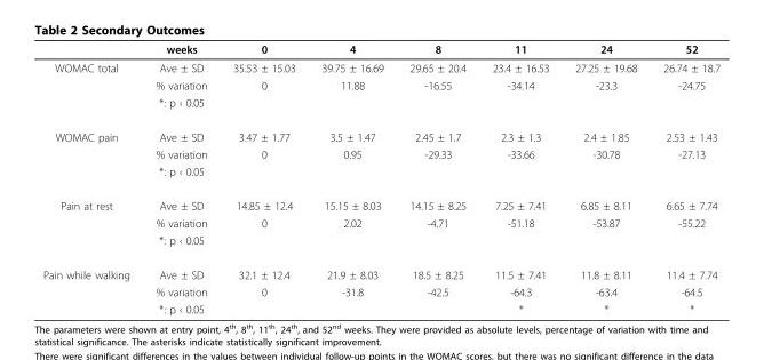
<table><thead><tr><td></td><td>weeks</td><td>0</td><td>4</td><td>8</td><td>11</td><td>24</td><td>52</td></tr></thead><tbody><tr><td rowspan="3">WOMAC total</td><td>Ave ± SD</td><td>35.53 ± 15.03</td><td>39.75 ± 16.69</td><td>29.65 ± 20.4</td><td>23.4 ± 16.53</td><td>27.25 ± 19.68</td><td>26.74 ± 18.7</td></tr><tr><td>% variation</td><td>0</td><td>11.88</td><td>-16.55</td><td>-34.14</td><td>-23.3</td><td>-24.75</td></tr><tr><td>*: p ‹ 0.05</td><td></td><td></td><td></td><td></td><td></td><td></td></tr><tr><td rowspan="3">WOMAC pain</td><td>Ave ± SD</td><td>3.47 ± 1.77</td><td>3.5 ± 1.47</td><td>2.45 ± 1.7</td><td>2.3 ± 1.3</td><td>2.4 ± 1.85</td><td>2.53 ± 1.43</td></tr><tr><td>% variation</td><td>0</td><td>0.95</td><td>-29.33</td><td>-33.66</td><td>-30.78</td><td>-27.13</td></tr><tr><td>*: p ‹ 0.05</td><td></td><td></td><td></td><td></td><td></td><td></td></tr><tr><td rowspan="3">Pain at rest</td><td>Ave ± SD</td><td>14.85 ± 12.4</td><td>15.15 ± 8.03</td><td>14.15 ± 8.25</td><td>7.25 ± 7.41</td><td>6.85 ± 8.11</td><td>6.65 ± 7.74</td></tr><tr><td>% variation</td><td>0</td><td>2.02</td><td>-4.71</td><td>-51.18</td><td>-53.87</td><td>-55.22</td></tr><tr><td>*: p ‹ 0.05</td><td></td><td></td><td></td><td></td><td></td><td></td></tr><tr><td rowspan="3">Pain while walking</td><td>Ave ± SD</td><td>32.1 ± 12.4</td><td>21.9 ± 8.03</td><td>18.5 ± 8.25</td><td>11.5 ± 7.41</td><td>11.8 ± 8.11</td><td>11.4 ± 7.74</td></tr><tr><td>% variation</td><td>0</td><td>-31.8</td><td>-42.5</td><td>-64.3</td><td>-63.4</td><td>-64.5</td></tr><tr><td>*: p ‹ 0.05</td><td></td><td></td><td></td><td>*</td><td>*</td><td>*</td></tr></tbody></table>